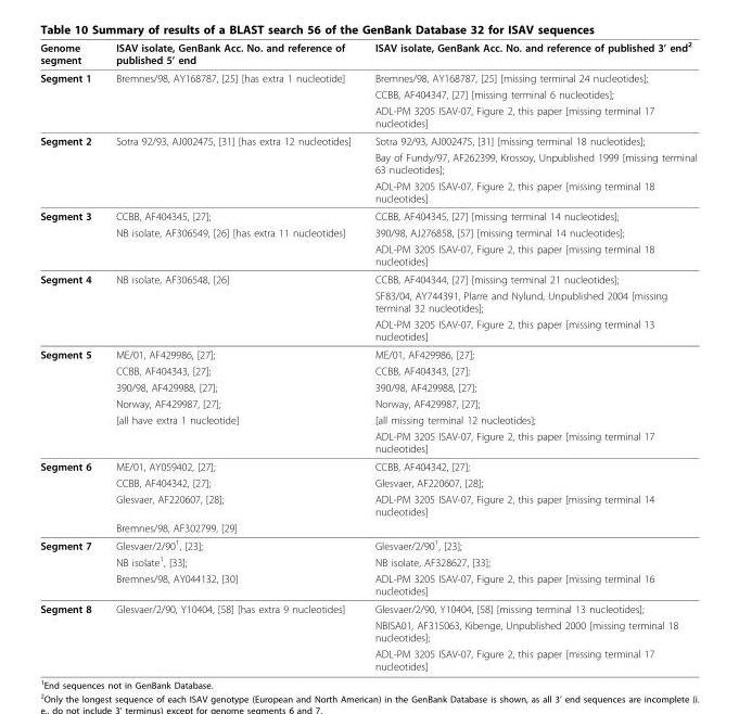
<table><thead><tr><td>Genome segment</td><td>ISAV isolate, GenBank Acc. No. and reference of published 5’ end</td><td>ISAV isolate, GenBank Acc. No. and reference of published 3’ end<sup>2</sup></td></tr></thead><tbody><tr><td rowspan="3">Segment 1</td><td>Bremnes/98, AY168787, [25] [has extra 1 nucleotide]</td><td>Bremnes/98, AY168787, [25] [missing terminal 24 nucleotides];</td></tr><tr><td></td><td>CCBB, AF404347, [27] [missing terminal 6 nucleotides];</td></tr><tr><td></td><td>ADL-PM 3205 ISAV-07, Figure 2, this paper [missing terminal 17 nucleotides]</td></tr><tr><td rowspan="3">Segment 2</td><td>Sotra 92/93, AJ002475, [31] [has extra 12 nucleotides]</td><td>Sotra 92/93, AJ002475, [31] [missing terminal 18 nucleotides];</td></tr><tr><td></td><td>Bay of Fundy/97, AF262399, Krossoy, Unpublished 1999 [missing terminal 63 nucleotides];</td></tr><tr><td></td><td>ADL-PM 3205 ISAV-07, Figure 2, this paper [missing terminal 18 nucleotides]</td></tr><tr><td rowspan="3">Segment 3</td><td>CCBB, AF404345, [27];</td><td>CCBB, AF404345, [27] [missing terminal 14 nucleotides];</td></tr><tr><td>NB isolate, AF306549, [26] [has extra 11 nucleotides]</td><td>390/98, AJ276858, [57] [missing terminal 14 nucleotides];</td></tr><tr><td></td><td>ADL-PM 3205 ISAV-07, Figure 2, this paper [missing terminal 18 nucleotides]</td></tr><tr><td rowspan="3">Segment 4</td><td>NB isolate, AF306548, [26]</td><td>CCBB, AF404344, [27] [missing terminal 21 nucleotides];</td></tr><tr><td></td><td>SF83/04, AY744391, Plarre and Nylund, Unpublished 2004 [missing terminal 32 nucleotides];</td></tr><tr><td></td><td>ADL-PM 3205 ISAV-07, Figure 2, this paper [missing terminal 13 nucleotides]</td></tr><tr><td rowspan="6">Segment 5</td><td>ME/01, AF429986, [27];</td><td>ME/01, AF429986, [27];</td></tr><tr><td>CCBB, AF404343, [27];</td><td>CCBB, AF404343, [27];</td></tr><tr><td>390/98, AF429988, [27];</td><td>390/98, AF429988, [27];</td></tr><tr><td>Norway, AF429987, [27];</td><td>Norway, AF429987, [27];</td></tr><tr><td>[all have extra 1 nucleotide]</td><td>[all missing terminal 12 nucleotides];</td></tr><tr><td></td><td>ADL-PM 3205 ISAV-07, Figure 2, this paper [missing terminal 17 nucleotides]</td></tr><tr><td rowspan="4">Segment 6</td><td>ME/01, AY059402, [27];</td><td>CCBB, AF404342, [27];</td></tr><tr><td>CCBB, AF404342, [27];</td><td>Glesvaer, AF220607, [28];</td></tr><tr><td>Glesvaer, AF220607, [28];</td><td>ADL-PM 3205 ISAV-07, Figure 2, this paper [missing terminal 14 nucleotides]</td></tr><tr><td>Bremnes/98, AF302799, [29]</td><td></td></tr><tr><td rowspan="3">Segment 7</td><td>Glesvaer/2/90<sup>1</sup>, [23];</td><td>Glesvaer/2/90<sup>1</sup>, [23];</td></tr><tr><td>NB isolate<sup>1</sup>, [33];</td><td>NB isolate, AF328627, [33];</td></tr><tr><td>Bremnes/98, AY044132, [30]</td><td>ADL-PM 3205 ISAV-07, Figure 2, this paper [missing terminal 16 nucleotides]</td></tr><tr><td rowspan="3">Segment 8</td><td>Glesvaer/2/90, Y10404, [58] [has extra 9 nucleotides]</td><td>Glesvaer/2/90, Y10404, [58] [missing terminal 13 nucleotides];</td></tr><tr><td></td><td>NBISA01, AF315063, Kibenge, Unpublished 2000 [missing terminal 18 nucleotides];</td></tr><tr><td></td><td>ADL-PM 3205 ISAV-07, Figure 2, this paper [missing terminal 17 nucleotides]</td></tr></tbody></table>